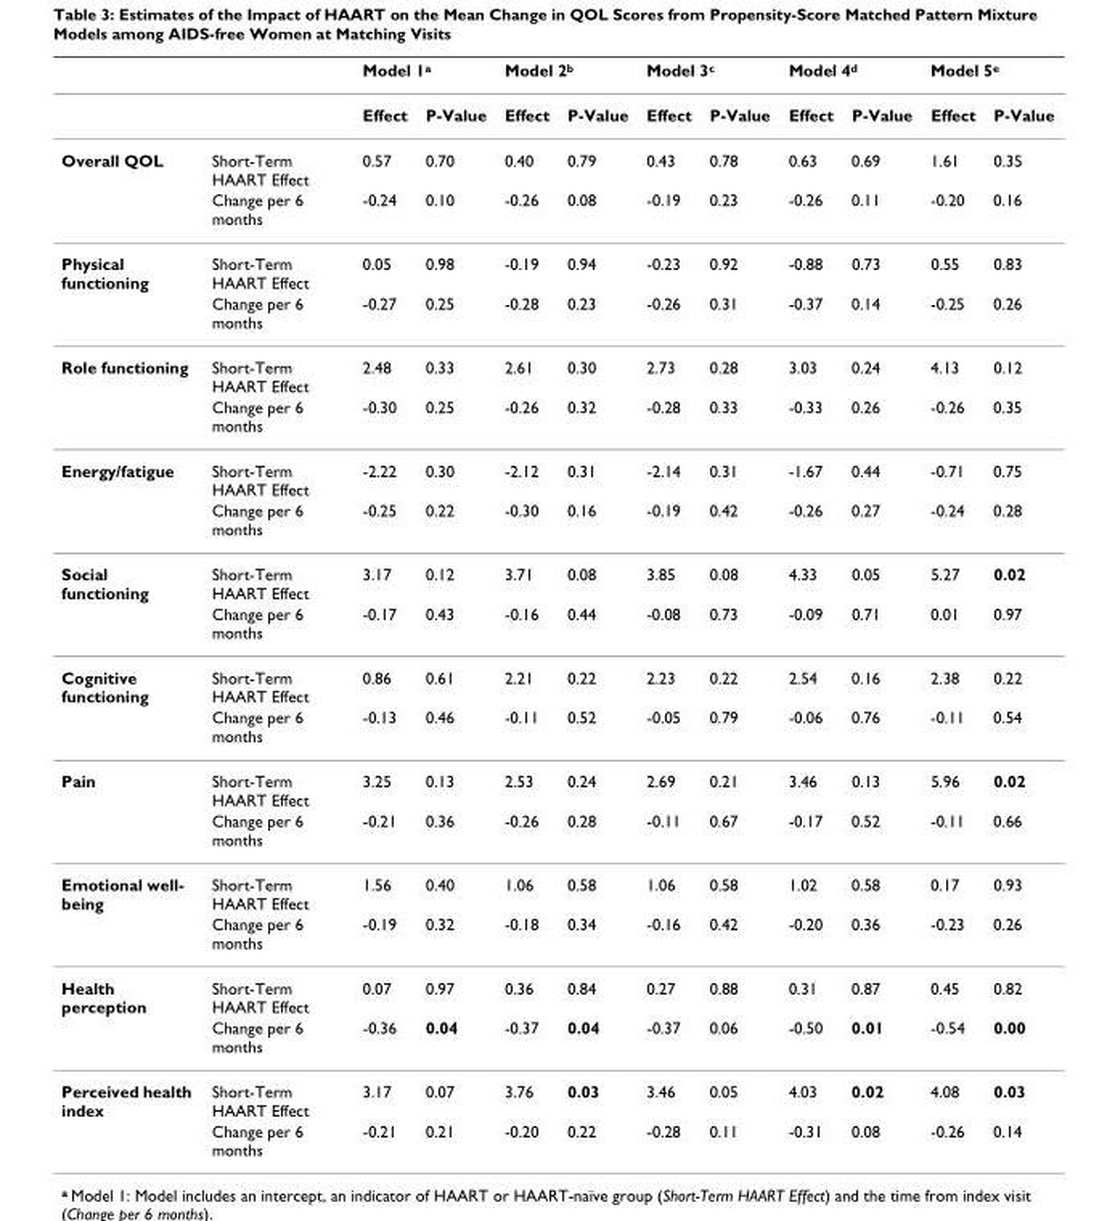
<table><thead><tr><td rowspan="2"></td><td rowspan="2"></td><td colspan="2">Model 1a</td><td colspan="2">Model 2b</td><td colspan="2">Model 3c</td><td colspan="2">Model 4d</td><td colspan="2">Model 5e</td></tr><tr><td>Effect</td><td>P-Value</td><td>Effect</td><td>P-Value</td><td>Effect</td><td>P-Value</td><td>Effect</td><td>P-Value</td><td>Effect</td><td>P-Value</td></tr></thead><tbody><tr><td rowspan="2">Overall QOL</td><td>Short-Term HAART Effect</td><td>0.57</td><td>0.70</td><td>0.40</td><td>0.79</td><td>0.43</td><td>0.78</td><td>0.63</td><td>0.69</td><td>1.61</td><td>0.35</td></tr><tr><td>Change per 6 months</td><td>-0.24</td><td>0.10</td><td>-0.26</td><td>0.08</td><td>-0.19</td><td>0.23</td><td>-0.26</td><td>0.11</td><td>-0.20</td><td>0.16</td></tr><tr><td rowspan="2">Physical functioning</td><td>Short-Term HAART Effect</td><td>0.05</td><td>0.98</td><td>-0.19</td><td>0.94</td><td>-0.23</td><td>0.92</td><td>-0.88</td><td>0.73</td><td>0.55</td><td>0.83</td></tr><tr><td>Change per 6 months</td><td>-0.27</td><td>0.25</td><td>-0.28</td><td>0.23</td><td>-0.26</td><td>0.31</td><td>-0.37</td><td>0.14</td><td>-0.25</td><td>0.26</td></tr><tr><td rowspan="2">Role functioning</td><td>Short-Term HAART Effect</td><td>2.48</td><td>0.33</td><td>2.61</td><td>0.30</td><td>2.73</td><td>0.28</td><td>3.03</td><td>0.24</td><td>4.13</td><td>0.12</td></tr><tr><td>Change per 6 months</td><td>-0.30</td><td>0.25</td><td>-0.26</td><td>0.32</td><td>-0.28</td><td>0.33</td><td>-0.33</td><td>0.26</td><td>-0.26</td><td>0.35</td></tr><tr><td rowspan="2">Energy/fatigue</td><td>Short-Term HAART Effect</td><td>-2.22</td><td>0.30</td><td>-2.12</td><td>0.31</td><td>-2.14</td><td>0.31</td><td>-1.67</td><td>0.44</td><td>-0.71</td><td>0.75</td></tr><tr><td>Change per 6 months</td><td>-0.25</td><td>0.22</td><td>-0.30</td><td>0.16</td><td>-0.19</td><td>0.42</td><td>-0.26</td><td>0.27</td><td>-0.24</td><td>0.28</td></tr><tr><td rowspan="2">Social functioning</td><td>Short-Term HAART Effect</td><td>3.17</td><td>0.12</td><td>3.71</td><td>0.08</td><td>3.85</td><td>0.08</td><td>4.33</td><td>0.05</td><td>5.27</td><td>0.02</td></tr><tr><td>Change per 6 months</td><td>-0.17</td><td>0.43</td><td>-0.16</td><td>0.44</td><td>-0.08</td><td>0.73</td><td>-0.09</td><td>0.71</td><td>0.01</td><td>0.97</td></tr><tr><td rowspan="2">Cognitive functioning</td><td>Short-Term HAART Effect</td><td>0.86</td><td>0.61</td><td>2.21</td><td>0.22</td><td>2.23</td><td>0.22</td><td>2.54</td><td>0.16</td><td>2.38</td><td>0.22</td></tr><tr><td>Change per 6 months</td><td>-0.13</td><td>0.46</td><td>-0.11</td><td>0.52</td><td>-0.05</td><td>0.79</td><td>-0.06</td><td>0.76</td><td>-0.11</td><td>0.54</td></tr><tr><td rowspan="2">Pain</td><td>Short-Term HAART Effect</td><td>3.25</td><td>0.13</td><td>2.53</td><td>0.24</td><td>2.69</td><td>0.21</td><td>3.46</td><td>0.13</td><td>5.96</td><td>0.02</td></tr><tr><td>Change per 6 months</td><td>-0.21</td><td>0.36</td><td>-0.26</td><td>0.28</td><td>-0.11</td><td>0.67</td><td>-0.17</td><td>0.52</td><td>-0.11</td><td>0.66</td></tr><tr><td rowspan="2">Emotional well- being</td><td>Short-Term HAART Effect</td><td>1.56</td><td>0.40</td><td>1.06</td><td>0.58</td><td>1.06</td><td>0.58</td><td>1.02</td><td>0.58</td><td>0.17</td><td>0.93</td></tr><tr><td>Change per 6 months</td><td>-0.19</td><td>0.32</td><td>-0.18</td><td>0.34</td><td>-0.16</td><td>0.42</td><td>-0.20</td><td>0.36</td><td>-0.23</td><td>0.26</td></tr><tr><td rowspan="2">Health perception</td><td>Short-Term HAART Effect</td><td>0.07</td><td>0.97</td><td>0.36</td><td>0.84</td><td>0.27</td><td>0.88</td><td>0.31</td><td>0.87</td><td>0.45</td><td>0.82</td></tr><tr><td>Change per 6 months</td><td>-0.36</td><td>0.04</td><td>-0.37</td><td>0.04</td><td>-0.37</td><td>0.06</td><td>-0.50</td><td>0.01</td><td>-0.54</td><td>0.00</td></tr><tr><td rowspan="2">Perceived health index</td><td>Short-Term HAART Effect</td><td>3.17</td><td>0.07</td><td>3.76</td><td>0.03</td><td>3.46</td><td>0.05</td><td>4.03</td><td>0.02</td><td>4.08</td><td>0.03</td></tr><tr><td>Change per 6 months</td><td>-0.21</td><td>0.21</td><td>-0.20</td><td>0.22</td><td>-0.28</td><td>0.11</td><td>-0.31</td><td>0.08</td><td>-0.26</td><td>0.14</td></tr></tbody></table>